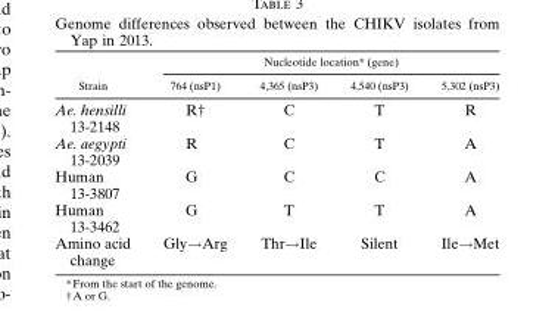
<table><thead><tr><td rowspan="2">Strain</td><td colspan="4">Nucleotide location* (gene)</td></tr><tr><td>764 (nsP1)</td><td>4,365 (nsP3)</td><td>4,540 (nsP3)</td><td>5,302 (nsP3)</td></tr></thead><tbody><tr><td>Ae. hensilli 13-2148</td><td>R†</td><td>C</td><td>T</td><td>R</td></tr><tr><td>Ae. aegypti 13-2039</td><td>R</td><td>C</td><td>T</td><td>A</td></tr><tr><td>Human 13-3807</td><td>G</td><td>C</td><td>C</td><td>A</td></tr><tr><td>Human 13-3462</td><td>G</td><td>T</td><td>T</td><td>A</td></tr><tr><td>Amino acid change</td><td>Gly→Arg</td><td>Thr→Ile</td><td>Silent</td><td>Ile→Met</td></tr></tbody></table>